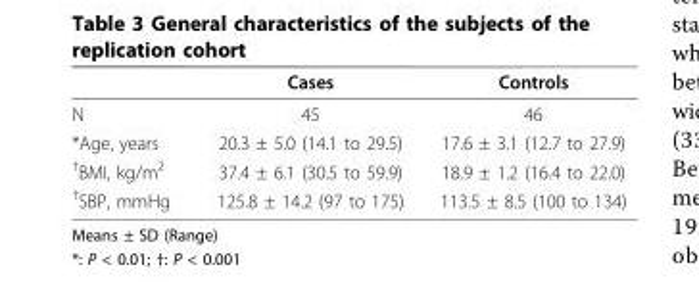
<table><thead><tr><td></td><td>Cases</td><td>Controls</td></tr></thead><tbody><tr><td>N</td><td>45</td><td>46</td></tr><tr><td>*Age, years</td><td>20.3 ± 5.0 (14.1 to 29.5)</td><td>17.6 ± 3.1 (12.7 to 27.9)</td></tr><tr><td><sup>†</sup>BMI, kg/m<sup>2</sup></td><td>37.4 ± 6.1 (30.5 to 59.9)</td><td>18.9 ± 1.2 (16.4 to 22.0)</td></tr><tr><td><sup>†</sup>SBP, mmHg</td><td>125.8 ± 14.2 (97 to 175)</td><td>113.5 ± 8.5 (100 to 134)</td></tr></tbody></table>